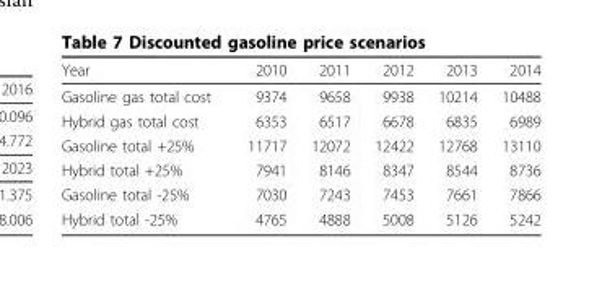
<table><thead><tr><td>Year</td><td>2010</td><td>2011</td><td>2012</td><td>2013</td><td>2014</td></tr></thead><tbody><tr><td>Gasoline gas total cost</td><td>9374</td><td>9658</td><td>9938</td><td>10214</td><td>10488</td></tr><tr><td>Hybrid gas total cost</td><td>6353</td><td>6517</td><td>6678</td><td>6835</td><td>6989</td></tr><tr><td>Gasoline total +25%</td><td>11717</td><td>12072</td><td>12422</td><td>12768</td><td>13110</td></tr><tr><td>Hybrid total +25%</td><td>7941</td><td>8146</td><td>8347</td><td>8544</td><td>8736</td></tr><tr><td>Gasoline total -25%</td><td>7030</td><td>7243</td><td>7453</td><td>7661</td><td>7866</td></tr><tr><td>Hybrid total -25%</td><td>4765</td><td>4888</td><td>5008</td><td>5126</td><td>5242</td></tr></tbody></table>